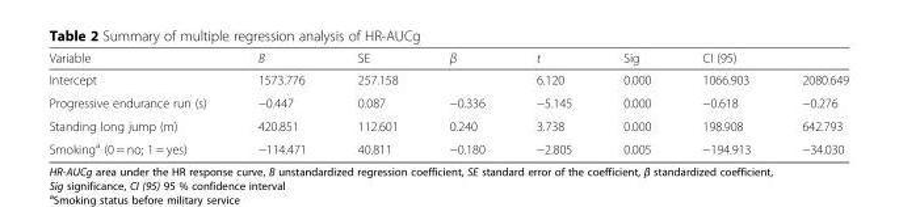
<table><thead><tr><td rowspan="2">Variable Intercept</td><td rowspan="2">B 1573.776</td><td rowspan="2">SE 257.158</td><td rowspan="2">β</td><td rowspan="2">t 6.120</td><td rowspan="2">Sig 0.000</td><td colspan="2">CI (95)</td></tr><tr><td>1066.903</td><td>2080.649</td></tr></thead><tbody><tr><td>Progressive endurance run (s)</td><td>−0.447</td><td>0.087</td><td>−0.336</td><td>−5.145</td><td>0.000</td><td>−0.618</td><td>−0.276</td></tr><tr><td>Standing long jump (m)</td><td>420.851</td><td>112.601</td><td>0.240</td><td>3.738</td><td>0.000</td><td>198.908</td><td>642.793</td></tr><tr><td>Smoking<sup>a</sup> (0 = no; 1 = yes)</td><td>−114.471</td><td>40.811</td><td>−0.180</td><td>−2.805</td><td>0.005</td><td>−194.913</td><td>−34.030</td></tr></tbody></table>